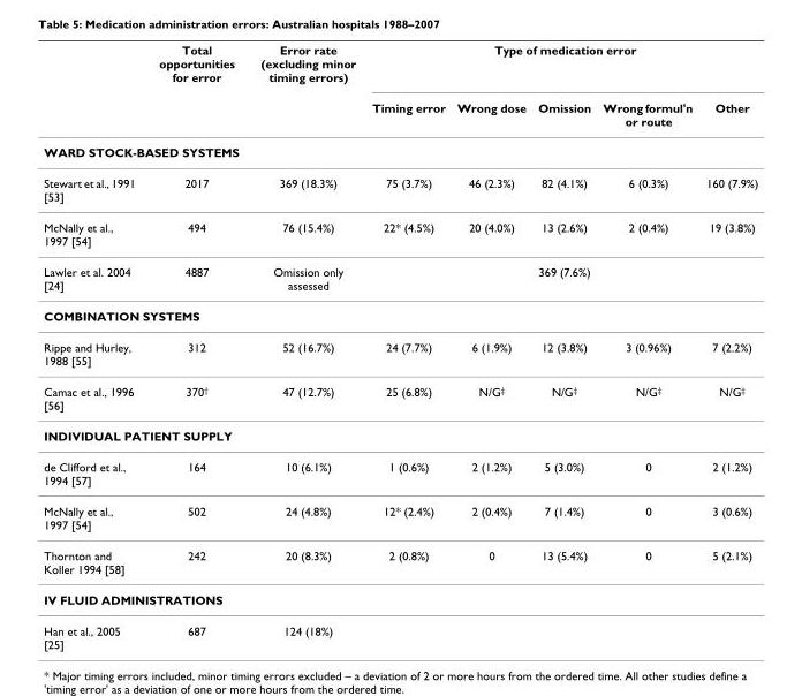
<table><thead><tr><td rowspan="2"></td><td rowspan="2">Total opportunities for error</td><td rowspan="2">Error rate (excluding minor timing errors)</td><td colspan="5">Type of medication error</td></tr><tr><td>Timing error</td><td>Wrong dose</td><td>Omission</td><td>Wrong formul&#x27;n or route</td><td>Other</td></tr></thead><tbody><tr><td colspan="8">WARD STOCK-BASED SYSTEMS</td></tr><tr><td>Stewart et al., 1991 [53]</td><td>2017</td><td>369 (18.3%)</td><td>75 (3.7%)</td><td>46 (2.3%)</td><td>82 (4.1%)</td><td>6 (0.3%)</td><td>160 (7.9%)</td></tr><tr><td>McNally et al., 1997 [54]</td><td>494</td><td>76 (15.4%)</td><td>22* (4.5%)</td><td>20 (4.0%)</td><td>13 (2.6%)</td><td>2 (0.4%)</td><td>19 (3.8%)</td></tr><tr><td>Lawler et al. 2004 [24]</td><td>4887</td><td>Omission only assessed</td><td></td><td></td><td>369 (7.6%)</td><td></td><td></td></tr><tr><td colspan="8">COMBINATION SYSTEMS</td></tr><tr><td>Rippe and Hurley, 1988 [55]</td><td>312</td><td>52 (16.7%)</td><td>24 (7.7%)</td><td>6 (1.9%)</td><td>12 (3.8%)</td><td>3 (0.96%)</td><td>7 (2.2%)</td></tr><tr><td>Camac et al., 1996 [56]</td><td>370<sup>†</sup></td><td>47 (12.7%)</td><td>25 (6.8%)</td><td>N/G<sup>‡</sup></td><td>N/G<sup>‡</sup></td><td>N/G<sup>‡</sup></td><td>N/G<sup>‡</sup></td></tr><tr><td colspan="8">INDIVIDUAL PATIENT SUPPLY</td></tr><tr><td>de Clifford et al., 1994 [57]</td><td>164</td><td>10 (6.1%)</td><td>1 (0.6%)</td><td>2 (1.2%)</td><td>5 (3.0%)</td><td>0</td><td>2 (1.2%)</td></tr><tr><td>McNally et al., 1997 [54]</td><td>502</td><td>24 (4.8%)</td><td>12* (2.4%)</td><td>2 (0.4%)</td><td>7 (1.4%)</td><td>0</td><td>3 (0.6%)</td></tr><tr><td>Thornton and Koller 1994 [58]</td><td>242</td><td>20 (8.3%)</td><td>2 (0.8%)</td><td>0</td><td>13 (5.4%)</td><td>0</td><td>5 (2.1%)</td></tr><tr><td colspan="8">IV FLUID ADMINISTRATIONS</td></tr><tr><td>Han et al., 2005 [25]</td><td>687</td><td>124 (18%)</td><td></td><td></td><td></td><td></td><td></td></tr></tbody></table>